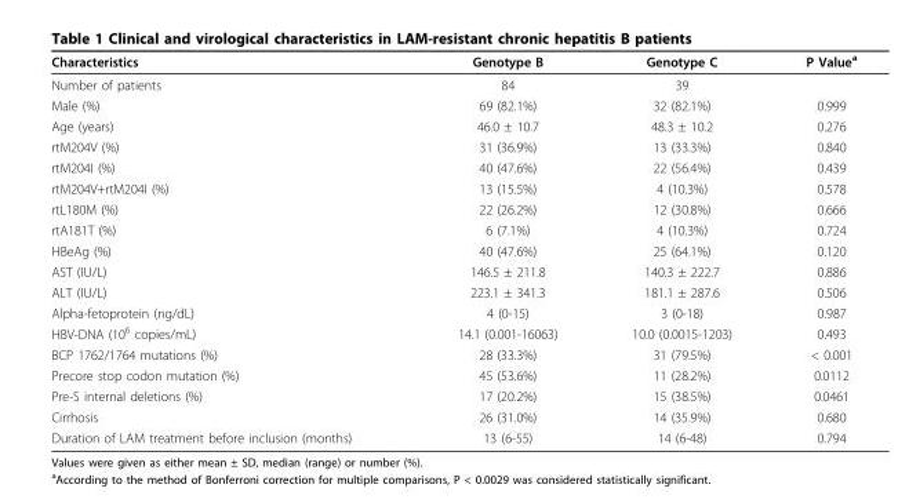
<table><thead><tr><td>Characteristics</td><td>Genotype B</td><td>Genotype C</td><td>P Value<sup>a</sup></td></tr></thead><tbody><tr><td>Number of patients</td><td>84</td><td>39</td><td></td></tr><tr><td>Male (%)</td><td>69 (82.1%)</td><td>32 (82.1%)</td><td>0.999</td></tr><tr><td>Age (years)</td><td>46.0 ± 10.7</td><td>48.3 ± 10.2</td><td>0.276</td></tr><tr><td>rtM204V (%)</td><td>31 (36.9%)</td><td>13 (33.3%)</td><td>0.840</td></tr><tr><td>rtM204I (%)</td><td>40 (47.6%)</td><td>22 (56.4%)</td><td>0.439</td></tr><tr><td>rtM204V+rtM204I (%)</td><td>13 (15.5%)</td><td>4 (10.3%)</td><td>0.578</td></tr><tr><td>rtL180M (%)</td><td>22 (26.2%)</td><td>12 (30.8%)</td><td>0.666</td></tr><tr><td>rtA181T (%)</td><td>6 (7.1%)</td><td>4 (10.3%)</td><td>0.724</td></tr><tr><td>HBeAg (%)</td><td>40 (47.6%)</td><td>25 (64.1%)</td><td>0.120</td></tr><tr><td>AST (IU/L)</td><td>146.5 ± 211.8</td><td>140.3 ± 222.7</td><td>0.886</td></tr><tr><td>ALT (IU/L)</td><td>223.1 ± 341.3</td><td>181.1 ± 287.6</td><td>0.506</td></tr><tr><td>Alpha-fetoprotein (ng/dL)</td><td>4 (0-15)</td><td>3 (0-18)</td><td>0.987</td></tr><tr><td>HBV-DNA (10<sup>6</sup> copies/mL)</td><td>14.1 (0.001-16063)</td><td>10.0 (0.0015-1203)</td><td>0.493</td></tr><tr><td>BCP 1762/1764 mutations (%)</td><td>28 (33.3%)</td><td>31 (79.5%)</td><td>&lt; 0.001</td></tr><tr><td>Precore stop codon mutation (%)</td><td>45 (53.6%)</td><td>11 (28.2%)</td><td>0.0112</td></tr><tr><td>Pre-S internal deletions (%)</td><td>17 (20.2%)</td><td>15 (38.5%)</td><td>0.0461</td></tr><tr><td>Cirrhosis</td><td>26 (31.0%)</td><td>14 (35.9%)</td><td>0.680</td></tr><tr><td>Duration of LAM treatment before inclusion (months)</td><td>13 (6-55)</td><td>14 (6-48)</td><td>0.794</td></tr></tbody></table>